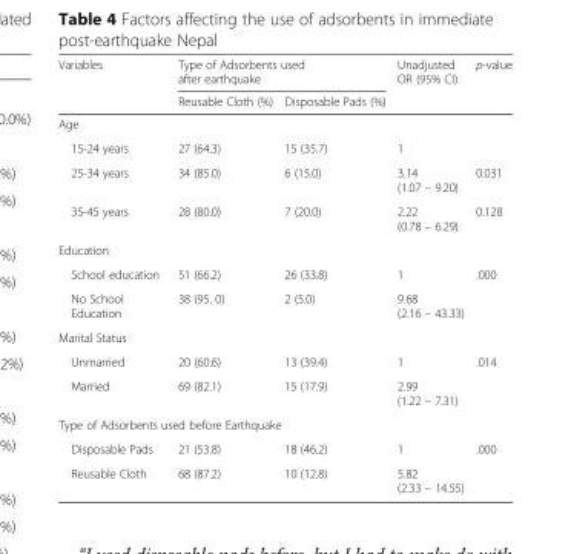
<table><thead><tr><td rowspan="2">Variables</td><td colspan="2">Type of Adsorbents used after earthquake</td><td rowspan="2">Unadjusted OR (95% CI)</td><td rowspan="2">p-value</td></tr><tr><td>Reusable Cloth (%)</td><td>Disposable Pads (%)</td></tr></thead><tbody><tr><td colspan="5">Age</td></tr><tr><td>15-24 years</td><td>27 (64.3)</td><td>15 (35.7)</td><td>1</td><td></td></tr><tr><td>25-34 years</td><td>34 (85.0)</td><td>6 (15.0)</td><td>3.14 (1.07 – 9.20)</td><td>0.031</td></tr><tr><td>35-45 years</td><td>28 (80.0)</td><td>7 (20.0)</td><td>2.22 (0.78 – 6.29)</td><td>0.128</td></tr><tr><td colspan="5">Education</td></tr><tr><td>School education</td><td>51 (66.2)</td><td>26 (33.8)</td><td>1</td><td>.000</td></tr><tr><td>No School Education</td><td>38 (95. 0)</td><td>2 (5.0)</td><td>9.68 (2.16 – 43.33)</td><td></td></tr><tr><td colspan="5">Marital Status</td></tr><tr><td>Unmarried</td><td>20 (60.6)</td><td>13 (39.4)</td><td>1</td><td>.014</td></tr><tr><td>Married</td><td>69 (82.1)</td><td>15 (17.9)</td><td>2.99 (1.22 – 7.31)</td><td></td></tr><tr><td colspan="5">Type of Adsorbents used before Earthquake</td></tr><tr><td>Disposable Pads</td><td>21 (53.8)</td><td>18 (46.2)</td><td>1</td><td>.000</td></tr><tr><td>Reusable Cloth</td><td>68 (87.2)</td><td>10 (12.8)</td><td>5.82 (2.33 – 14.55)</td><td></td></tr></tbody></table>